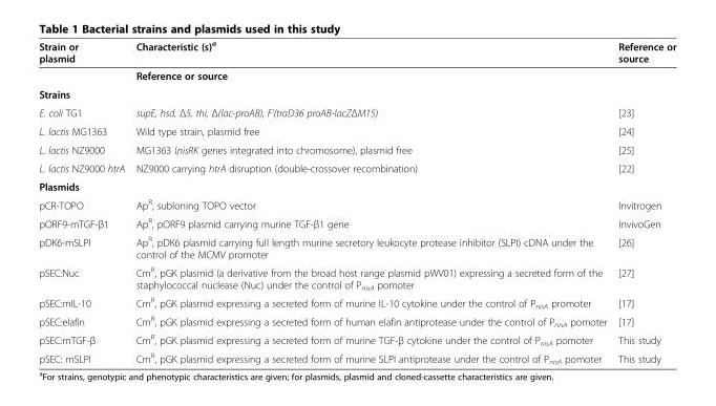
<table><thead><tr><td>Strain or plasmid</td><td>Characteristic (s)<sup>a</sup></td><td>Reference or source</td></tr></thead><tbody><tr><td></td><td>Reference or source</td><td></td></tr><tr><td colspan="3">Strains</td></tr><tr><td>E. coli TG1</td><td>supE, hsd, Δ5, thi, Δ(lac-proAB), F’(traD36 proAB-lacZΔM15)</td><td>[23]</td></tr><tr><td>L. lactis MG1363</td><td>Wild type strain, plasmid free</td><td>[24]</td></tr><tr><td>L. lactis NZ9000</td><td>MG1363 (nisRK genes integrated into chromosome), plasmid free</td><td>[25]</td></tr><tr><td>L. lactis NZ9000 htrA</td><td>NZ9000 carrying htrA disruption (double-crossover recombination)</td><td>[22]</td></tr><tr><td colspan="3">Plasmids</td></tr><tr><td>pCR-TOPO</td><td>Ap<sup>R</sup>, subloning TOPO vector</td><td>Invitrogen</td></tr><tr><td>pORF9-mTGF-β1</td><td>Ap<sup>R</sup>, pORF9 plasmid carrying murine TGF-β1 gene</td><td>InvivoGen</td></tr><tr><td>pDK6-mSLPI</td><td>Ap<sup>R</sup>, pDK6 plasmid carrying full length murine secretory leukocyte protease inhibitor (SLPI) cDNA under the control of the MCMV promoter</td><td>[26]</td></tr><tr><td>pSEC:Nuc</td><td>Cm<sup>R</sup>, pGK plasmid (a derivative from the broad host range plasmid pWV01) expressing a secreted form of the staphylococcal nuclease (Nuc) under the control of P<sub>nisA</sub> pomoter</td><td>[27]</td></tr><tr><td>pSEC:mIL-10</td><td>Cm<sup>R</sup>, pGK plasmid expressing a secreted form of murine IL-10 cytokine under the control of P<sub>nisA</sub> promoter</td><td>[17]</td></tr><tr><td>pSEC:elafin</td><td>Cm<sup>R</sup>, pGK plasmid expressing a secreted form of human elafin antiprotease under the control of P<sub>nisA</sub> pomoter</td><td>[17]</td></tr><tr><td>pSEC:mTGF-β</td><td>Cm<sup>R</sup>, pGK plasmid expressing a secreted form of murine TGF-β cytokine under the control of P<sub>nisA</sub> pomoter</td><td>This study</td></tr><tr><td>pSEC: mSLPI</td><td>Cm<sup>R</sup>, pGK plasmid expressing a secreted form of murine SLPI antiprotease under the control of P<sub>nisA</sub> pomoter</td><td>This study</td></tr></tbody></table>